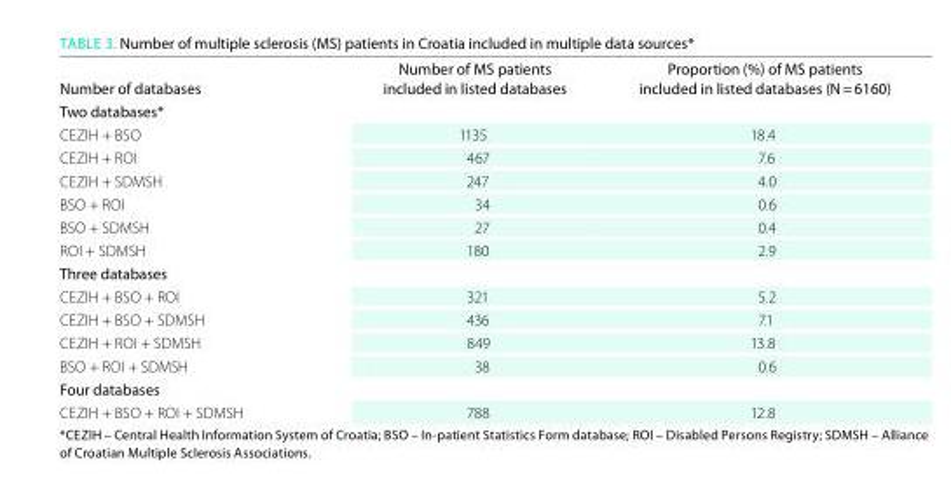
<table><thead><tr><td>Number of databases</td><td>Number of MS patients included in listed databases</td><td>Proportion (%) of MS patients included in listed databases (N = 6160)</td></tr></thead><tbody><tr><td colspan="3">Two databases*</td></tr><tr><td>CEZIH + BSO</td><td>1135</td><td>18.4</td></tr><tr><td>CEZIH + ROI</td><td>467</td><td>7.6</td></tr><tr><td>CEZIH + SDMSH</td><td>247</td><td>4.0</td></tr><tr><td>BSO + ROI</td><td>34</td><td>0.6</td></tr><tr><td>BSO + SDMSH</td><td>27</td><td>0.4</td></tr><tr><td>ROI + SDMSH</td><td>180</td><td>2.9</td></tr><tr><td colspan="3">Three databases</td></tr><tr><td>CEZIH + BSO + ROI</td><td>321</td><td>5.2</td></tr><tr><td>CEZIH + BSO + SDMSH</td><td>436</td><td>7.1</td></tr><tr><td>CEZIH + ROI + SDMSH</td><td>849</td><td>13.8</td></tr><tr><td>BSO + ROI + SDMSH</td><td>38</td><td>0.6</td></tr><tr><td colspan="3">Four databases</td></tr><tr><td>CEZIH + BSO + ROI + SDMSH</td><td>788</td><td>12.8</td></tr></tbody></table>